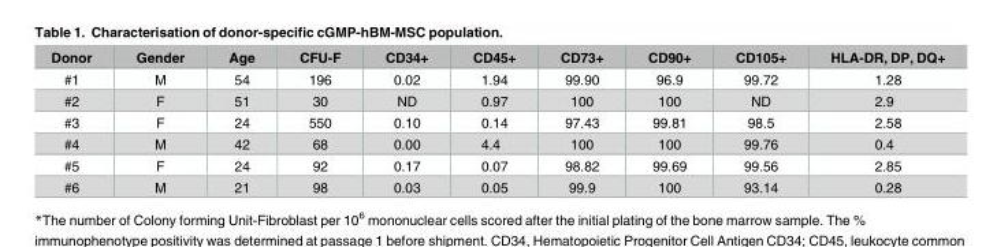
<table><thead><tr><td>Donor</td><td>Gender</td><td>Age</td><td>CFU-F</td><td>CD34+</td><td>CD45+</td><td>CD73+</td><td>CD90+</td><td>CD105+</td><td>HLA-DR, DP, DQ+</td></tr></thead><tbody><tr><td>#1</td><td>M</td><td>54</td><td>196</td><td>0.02</td><td>1.94</td><td>99.90</td><td>96.9</td><td>99.72</td><td>1.28</td></tr><tr><td>#2</td><td>F</td><td>51</td><td>30</td><td>ND</td><td>0.97</td><td>100</td><td>100</td><td>ND</td><td>2.9</td></tr><tr><td>#3</td><td>F</td><td>24</td><td>550</td><td>0.10</td><td>0.14</td><td>97.43</td><td>99.81</td><td>98.5</td><td>2.58</td></tr><tr><td>#4</td><td>M</td><td>42</td><td>68</td><td>0.00</td><td>4.4</td><td>100</td><td>100</td><td>99.76</td><td>0.4</td></tr><tr><td>#5</td><td>F</td><td>24</td><td>92</td><td>0.17</td><td>0.07</td><td>98.82</td><td>99.69</td><td>99.56</td><td>2.85</td></tr><tr><td>#6</td><td>M</td><td>21</td><td>98</td><td>0.03</td><td>0.05</td><td>99.9</td><td>100</td><td>93.14</td><td>0.28</td></tr></tbody></table>